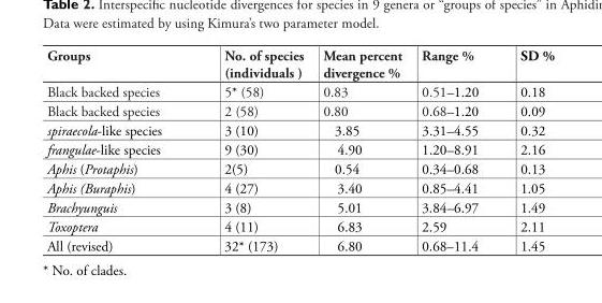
<table><tbody><tr><td>Groups</td><td>No. of species (individuals )</td><td>Mean percent divergence %</td><td>Range %</td><td>SD %</td></tr><tr><td>Black backed species</td><td>5* (58)</td><td>0.83</td><td>0.51–1.20</td><td>0.18</td></tr><tr><td>Black backed species</td><td>2 (58)</td><td>0.80</td><td>0.68–1.20</td><td>0.09</td></tr><tr><td>spiraecola-like species</td><td>3 (10)</td><td>3.85</td><td>3.31–4.55</td><td>0.32</td></tr><tr><td>frangulae-like species</td><td>9 (30)</td><td>4.90</td><td>1.20–8.91</td><td>2.16</td></tr><tr><td>Aphis (Protaphis)</td><td>2(5)</td><td>0.54</td><td>0.34–0.68</td><td>0.13</td></tr><tr><td>Aphis (Buraphis)</td><td>4 (27)</td><td>3.40</td><td>0.85–4.41</td><td>1.05</td></tr><tr><td>Brachyunguis</td><td>3 (8)</td><td>5.01</td><td>3.84–6.97</td><td>1.49</td></tr><tr><td>Toxoptera</td><td>4 (11)</td><td>6.83</td><td>2.59</td><td>2.11</td></tr><tr><td>All (revised)</td><td>32* (173)</td><td>6.80</td><td>0.68–11.4</td><td>1.45</td></tr></tbody></table>